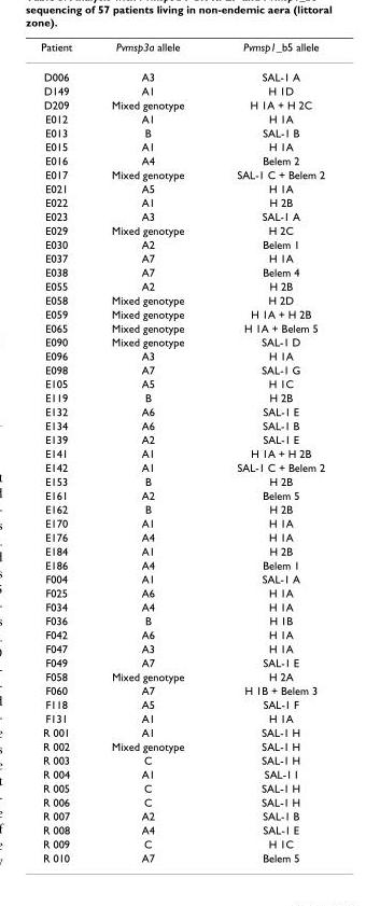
<table><thead><tr><td>Patient</td><td>Pvmsp3a allele</td><td>Pvmsp1_b5 allele</td></tr></thead><tbody><tr><td>D006</td><td>A3</td><td>SAL-1 A</td></tr><tr><td>D149</td><td>A1</td><td>H 1D</td></tr><tr><td>D209</td><td>Mixed genotype</td><td>H 1A + H 2C</td></tr><tr><td>E012</td><td>A1</td><td>H 1A</td></tr><tr><td>E013</td><td>B</td><td>SAL-1 B</td></tr><tr><td>E015</td><td>A1</td><td>H 1A</td></tr><tr><td>E016</td><td>A4</td><td>Belem 2</td></tr><tr><td>E017</td><td>Mixed genotype</td><td>SAL-1 C + Belem 2</td></tr><tr><td>E021</td><td>A5</td><td>H 1A</td></tr><tr><td>E022</td><td>A1</td><td>H 2B</td></tr><tr><td>E023</td><td>A3</td><td>SAL-1 A</td></tr><tr><td>E029</td><td>Mixed genotype</td><td>H 2C</td></tr><tr><td>E030</td><td>A2</td><td>Belem 1</td></tr><tr><td>E037</td><td>A7</td><td>H 1A</td></tr><tr><td>E038</td><td>A7</td><td>Belem 4</td></tr><tr><td>E055</td><td>A2</td><td>H 2B</td></tr><tr><td>E058</td><td>Mixed genotype</td><td>H 2D</td></tr><tr><td>E059</td><td>Mixed genotype</td><td>H 1A + H 2B</td></tr><tr><td>E065</td><td>Mixed genotype</td><td>H 1A + Belem 5</td></tr><tr><td>E090</td><td>Mixed genotype</td><td>SAL-1 D</td></tr><tr><td>E096</td><td>A3</td><td>H 1A</td></tr><tr><td>E098</td><td>A7</td><td>SAL-1 G</td></tr><tr><td>E105</td><td>A5</td><td>H 1C</td></tr><tr><td>E119</td><td>B</td><td>H 2B</td></tr><tr><td>E132</td><td>A6</td><td>SAL-1 E</td></tr><tr><td>E134</td><td>A6</td><td>SAL-1 B</td></tr><tr><td>E139</td><td>A2</td><td>SAL-1 E</td></tr><tr><td>E141</td><td>A1</td><td>H 1A + H 2B</td></tr><tr><td>E142</td><td>A1</td><td>SAL-1 C + Belem 2</td></tr><tr><td>E153</td><td>B</td><td>H 2B</td></tr><tr><td>E161</td><td>A2</td><td>Belem 5</td></tr><tr><td>E162</td><td>B</td><td>H 2B</td></tr><tr><td>E170</td><td>A1</td><td>H 1A</td></tr><tr><td>E176</td><td>A4</td><td>H 1A</td></tr><tr><td>E184</td><td>A1</td><td>H 2B</td></tr><tr><td>E186</td><td>A4</td><td>Belem 1</td></tr><tr><td>F004</td><td>A1</td><td>SAL-1 A</td></tr><tr><td>F025</td><td>A6</td><td>H 1A</td></tr><tr><td>F034</td><td>A4</td><td>H 1A</td></tr><tr><td>F036</td><td>B</td><td>H 1B</td></tr><tr><td>F042</td><td>A6</td><td>H 1A</td></tr><tr><td>F047</td><td>A3</td><td>H 1A</td></tr><tr><td>F049</td><td>A7</td><td>SAL-1 E</td></tr><tr><td>F058</td><td>Mixed genotype</td><td>H 2A</td></tr><tr><td>F060</td><td>A7</td><td>H 1B + Belem 3</td></tr><tr><td>F118</td><td>A5</td><td>SAL-1 F</td></tr><tr><td>F131</td><td>A1</td><td>H 1A</td></tr><tr><td>R 001</td><td>A1</td><td>SAL-1 H</td></tr><tr><td>R 002</td><td>Mixed genotype</td><td>SAL-1 H</td></tr><tr><td>R 003</td><td>C</td><td>SAL-1 H</td></tr><tr><td>R 004</td><td>A1</td><td>SAL-1 I</td></tr><tr><td>R 005</td><td>C</td><td>SAL-1 H</td></tr><tr><td>R 006</td><td>C</td><td>SAL-1 H</td></tr><tr><td>R 007</td><td>A2</td><td>SAL-1 B</td></tr><tr><td>R 008</td><td>A4</td><td>SAL-1 E</td></tr><tr><td>R 009</td><td>C</td><td>H 1C</td></tr><tr><td>R 010</td><td>A7</td><td>Belem 5</td></tr></tbody></table>